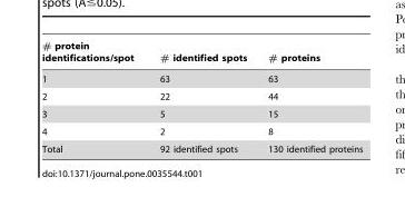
<table><thead><tr><td># protein identifications/spot</td><td># identified spots</td><td># proteins</td></tr></thead><tbody><tr><td>1</td><td>63</td><td>63</td></tr><tr><td>2</td><td>22</td><td>44</td></tr><tr><td>3</td><td>5</td><td>15</td></tr><tr><td>4</td><td>2</td><td>8</td></tr><tr><td>Total</td><td>92 identified spots</td><td>130 identified proteins</td></tr></tbody></table>